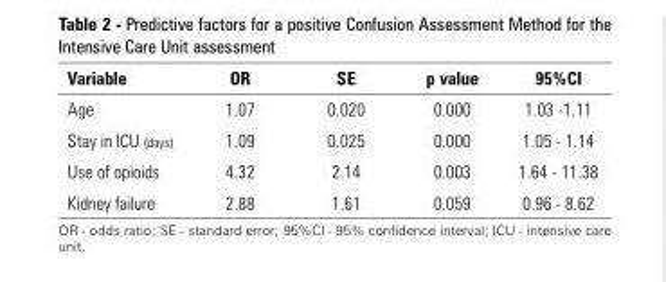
<table><thead><tr><td>Variable</td><td>OR</td><td>SE</td><td>p value</td><td>95%CI</td></tr></thead><tbody><tr><td>Age</td><td>1.07</td><td>0.020</td><td>0.000</td><td>1.03 -1.11</td></tr><tr><td>Stay in ICU (days)</td><td>1.09</td><td>0.025</td><td>0.000</td><td>1.05 - 1.14</td></tr><tr><td>Use of opioids</td><td>4.32</td><td>2.14</td><td>0.003</td><td>1.64 - 11.38</td></tr><tr><td>Kidney failure</td><td>2.88</td><td>1.61</td><td>0.059</td><td>0.96 - 8.62</td></tr></tbody></table>